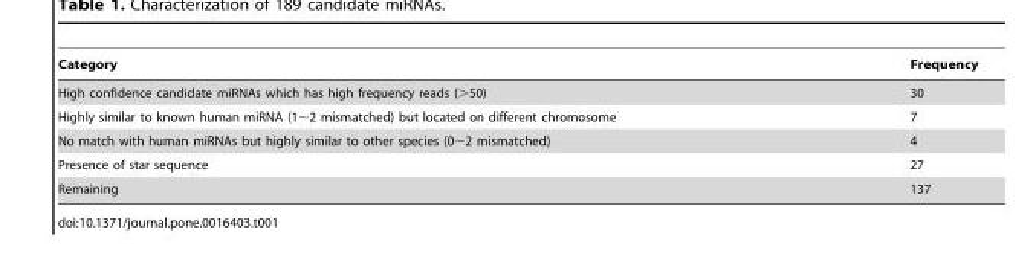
<table><thead><tr><td>Category</td><td>Frequency</td></tr></thead><tbody><tr><td>High confidence candidate miRNAs which has high frequency reads (&gt;50)</td><td>30</td></tr><tr><td>Highly similar to known human miRNA (1∼2 mismatched) but located on different chromosome</td><td>7</td></tr><tr><td>No match with human miRNAs but highly similar to other species (0∼2 mismatched)</td><td>4</td></tr><tr><td>Presence of star sequence</td><td>27</td></tr><tr><td>Remaining</td><td>137</td></tr></tbody></table>